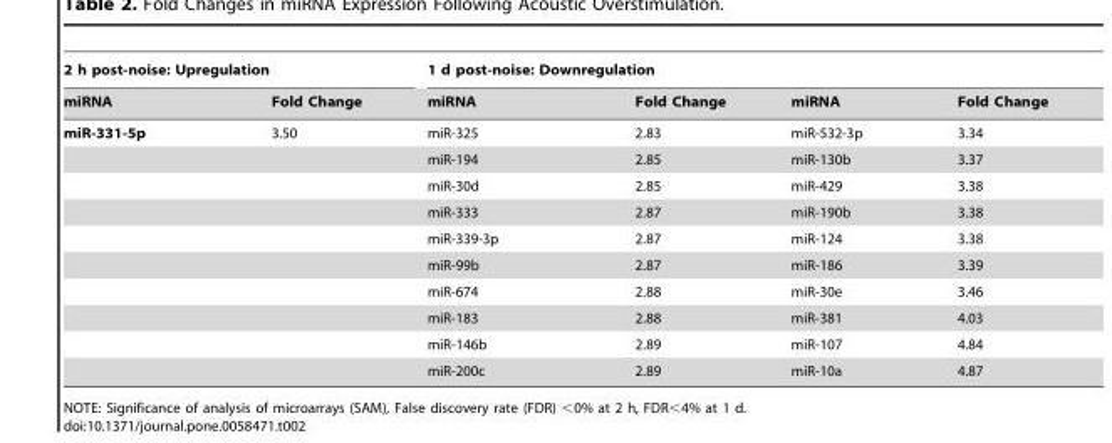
<table><thead><tr><td colspan="2">2 h post-noise: Upregulation</td><td colspan="4">1 d post-noise: Downregulation</td></tr><tr><td>miRNA</td><td>Fold Change</td><td>miRNA</td><td>Fold Change</td><td>miRNA</td><td>Fold Change</td></tr></thead><tbody><tr><td rowspan="10">miR-331-5p</td><td>3.50</td><td>miR-325</td><td>2.83</td><td>miR-532-3p</td><td>3.34</td></tr><tr><td></td><td>miR-194</td><td>2.85</td><td>miR-130b</td><td>3.37</td></tr><tr><td></td><td>miR-30d</td><td>2.85</td><td>miR-429</td><td>3.38</td></tr><tr><td></td><td>miR-333</td><td>2.87</td><td>miR-190b</td><td>3.38</td></tr><tr><td></td><td>miR-339-3p</td><td>2.87</td><td>miR-124</td><td>3.38</td></tr><tr><td></td><td>miR-99b</td><td>2.87</td><td>miR-186</td><td>3.39</td></tr><tr><td></td><td>miR-674</td><td>2.88</td><td>miR-30e</td><td>3.46</td></tr><tr><td></td><td>miR-183</td><td>2.88</td><td>miR-381</td><td>4.03</td></tr><tr><td></td><td>miR-146b</td><td>2.89</td><td>miR-107</td><td>4.84</td></tr><tr><td></td><td>miR-200c</td><td>2.89</td><td>miR-10a</td><td>4.87</td></tr></tbody></table>